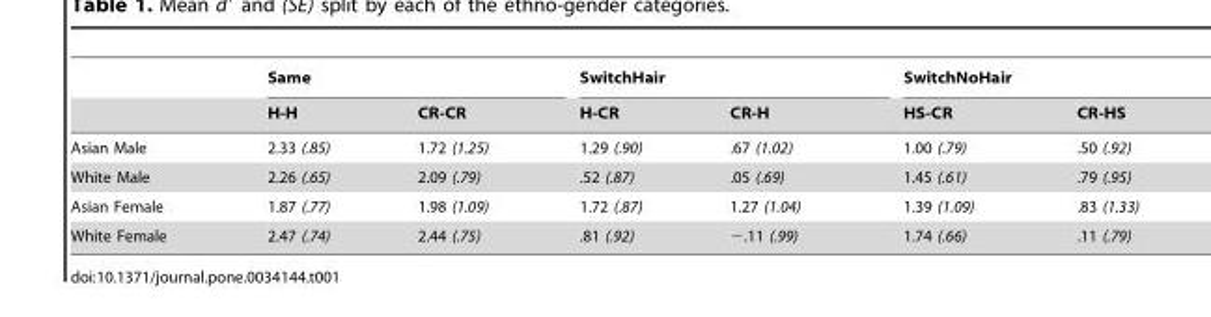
<table><thead><tr><td rowspan="2"></td><td colspan="2">Same</td><td colspan="2">SwitchHair</td><td colspan="2">SwitchNoHair</td></tr><tr><td>H-H</td><td>CR-CR</td><td>H-CR</td><td>CR-H</td><td>HS-CR</td><td>CR-HS</td></tr></thead><tbody><tr><td>Asian Male</td><td>2.33 (.85)</td><td>1.72 (1.25)</td><td>1.29 (.90)</td><td>.67 (1.02)</td><td>1.00 (.79)</td><td>.50 (.92)</td></tr><tr><td>White Male</td><td>2.26 (.65)</td><td>2.09 (.79)</td><td>.52 (.87)</td><td>.05 (.69)</td><td>1.45 (.61)</td><td>.79 (.95)</td></tr><tr><td>Asian Female</td><td>1.87 (.77)</td><td>1.98 (1.09)</td><td>1.72 (.87)</td><td>1.27 (1.04)</td><td>1.39 (1.09)</td><td>.83 (1.33)</td></tr><tr><td>White Female</td><td>2.47 (.74)</td><td>2.44 (.75)</td><td>.81 (.92)</td><td>−.11 (.99)</td><td>1.74 (.66)</td><td>.11 (.79)</td></tr></tbody></table>